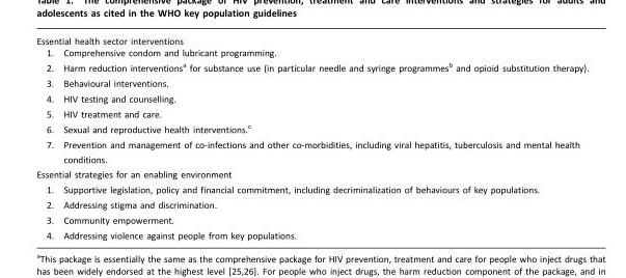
<table><tbody><tr><td colspan="2">Essential health sector interventions</td></tr><tr><td>1.</td><td>Comprehensive condom and lubricant programming.</td></tr><tr><td>2.</td><td>Harm reduction interventionsa for substance use (in particular needle and syringe programmesb and opioid substitution therapy).</td></tr><tr><td>3.</td><td>Behavioural interventions.</td></tr><tr><td>4.</td><td>HIV testing and counselling.</td></tr><tr><td>5.</td><td>HIV treatment and care.</td></tr><tr><td>6.</td><td>Sexual and reproductive health interventions.c</td></tr><tr><td>7.</td><td>Prevention and management of co-infections and other co-morbidities, including viral hepatitis, tuberculosis and mental health conditions.</td></tr><tr><td colspan="2">Essential strategies for an enabling environment</td></tr><tr><td>1.</td><td>Supportive legislation, policy and financial commitment, including decriminalization of behaviours of key populations.</td></tr><tr><td>2.</td><td>Addressing stigma and discrimination.</td></tr><tr><td>3.</td><td>Community empowerment.</td></tr><tr><td>4.</td><td>Addressing violence against people from key populations.</td></tr></tbody></table>